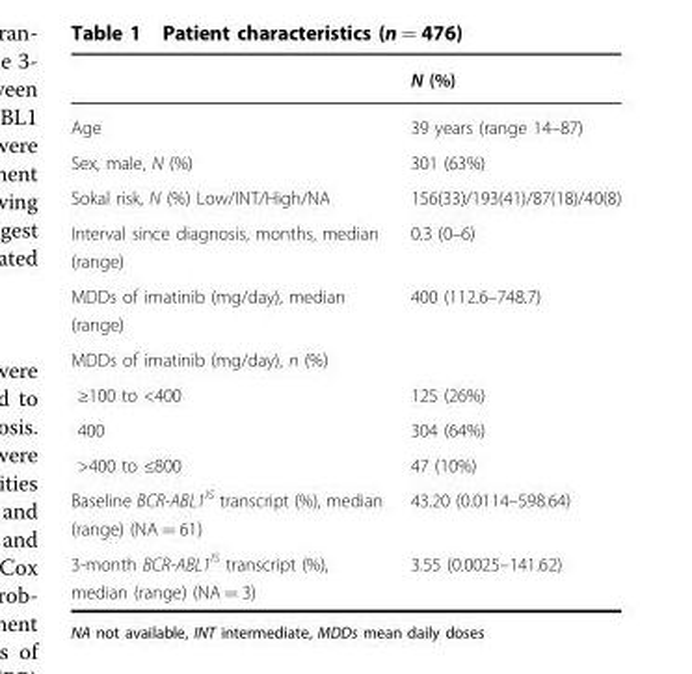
<table><thead><tr><td></td><td>N (%)</td></tr></thead><tbody><tr><td>Age</td><td>39 years (range 14–87)</td></tr><tr><td>Sex, male, N (%)</td><td>301 (63%)</td></tr><tr><td>Sokal risk, N (%) Low/INT/High/NA</td><td>156(33)/193(41)/87(18)/40(8)</td></tr><tr><td>Interval since diagnosis, months, median (range)</td><td>0.3 (0–6)</td></tr><tr><td>MDDs of imatinib (mg/day), median (range)</td><td>400 (112.6–748.7)</td></tr><tr><td colspan="2">MDDs of imatinib (mg/day), n (%)</td></tr><tr><td>≥100 to &lt;400</td><td>125 (26%)</td></tr><tr><td>400</td><td>304 (64%)</td></tr><tr><td>&gt;400 to ≤800</td><td>47 (10%)</td></tr><tr><td>Baseline BCR-ABL1<sup>IS</sup> transcript (%), median (range) (NA = 61)</td><td>43.20 (0.0114–598.64)</td></tr><tr><td>3-month BCR-ABL1<sup>IS</sup> transcript (%), median (range) (NA = 3)</td><td>3.55 (0.0025–141.62)</td></tr></tbody></table>